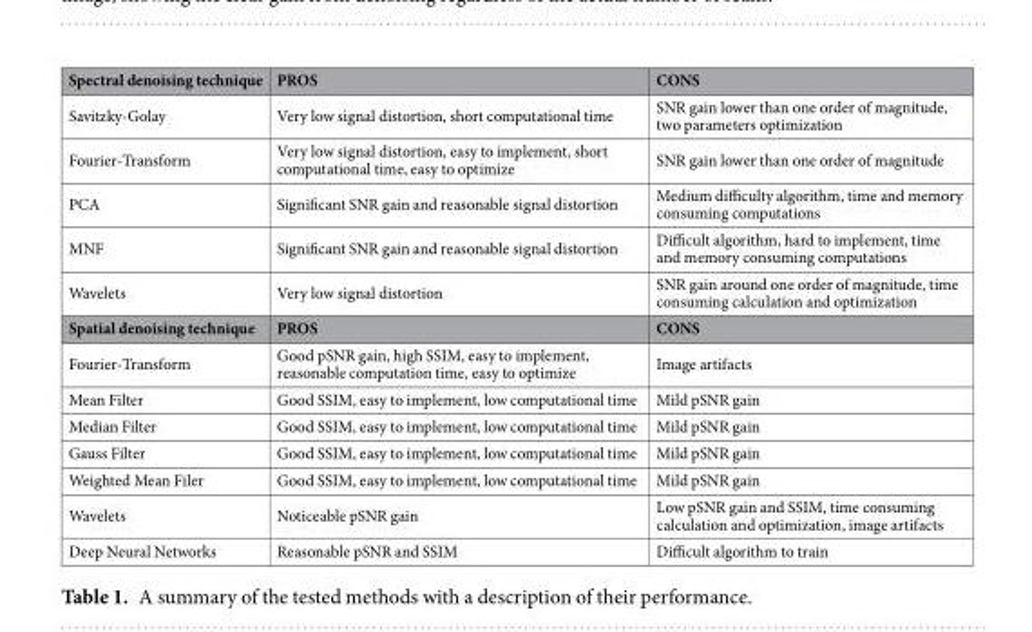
<table><thead><tr><td>Spectral denoising technique</td><td>PROS</td><td>CONS</td></tr></thead><tbody><tr><td>Savitzky-Golay</td><td>Very low signal distortion, short computational time</td><td>SNR gain lower than one order of magnitude, two parameters optimization</td></tr><tr><td>Fourier-Transform</td><td>Very low signal distortion, easy to implement, short computational time, easy to optimize</td><td>SNR gain lower than one order of magnitude</td></tr><tr><td>PCA</td><td>Significant SNR gain and reasonable signal distortion</td><td>Medium difficulty algorithm, time and memory consuming computations</td></tr><tr><td>MNF</td><td>Significant SNR gain and reasonable signal distortion</td><td>Difficult algorithm, hard to implement, time and memory consuming computations</td></tr><tr><td>Wavelets</td><td>Very low signal distortion</td><td>SNR gain around one order of magnitude, time consuming calculation and optimization</td></tr><tr><td>Spatial denoising technique</td><td>PROS</td><td>CONS</td></tr><tr><td>Fourier-Transform</td><td>Good pSNR gain, high SSIM, easy to implement, reasonable computation time, easy to optimize</td><td>Image artifacts</td></tr><tr><td>Mean Filter</td><td>Good SSIM, easy to implement, low computational time</td><td>Mild pSNR gain</td></tr><tr><td>Median Filter</td><td>Good SSIM, easy to implement, low computational time</td><td>Mild pSNR gain</td></tr><tr><td>Gauss Filter</td><td>Good SSIM, easy to implement, low computational time</td><td>Mild pSNR gain</td></tr><tr><td>Weighted Mean Filer</td><td>Good SSIM, easy to implement, low computational time</td><td>Mild pSNR gain</td></tr><tr><td>Wavelets</td><td>Noticeable pSNR gain</td><td>Low pSNR gain and SSIM, time consuming calculation and optimization, image artifacts</td></tr><tr><td>Deep Neural Networks</td><td>Reasonable pSNR and SSIM</td><td>Difficult algorithm to train</td></tr></tbody></table>